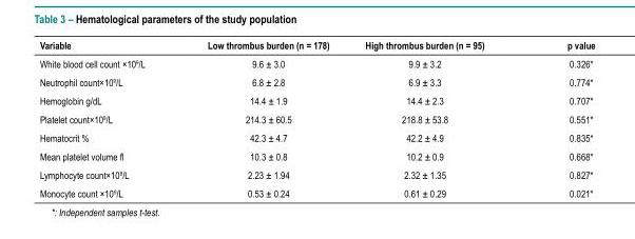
<table><thead><tr><td>Variable</td><td>Low thrombus burden (n = 178)</td><td>High thrombus burden (n = 95)</td><td>p value</td></tr></thead><tbody><tr><td>White blood cell count ×10<sup>9</sup>/L</td><td>9.6 ± 3.0</td><td>9.9 ± 3.2</td><td>0.326*</td></tr><tr><td>Neutrophil count×10<sup>9</sup>/L</td><td>6.8 ± 2.8</td><td>6.9 ± 3.3</td><td>0.774*</td></tr><tr><td>Hemoglobin g/dL</td><td>14.4 ± 1.9</td><td>14.4 ± 2.3</td><td>0.707*</td></tr><tr><td>Platelet count×10<sup>9</sup>/L</td><td>214.3 ± 60.5</td><td>218.8 ± 53.8</td><td>0.551*</td></tr><tr><td>Hematocrit %</td><td>42.3 ± 4.7</td><td>42.2 ± 4.9</td><td>0.835*</td></tr><tr><td>Mean platelet volume fl</td><td>10.3 ± 0.8</td><td>10.2 ± 0.9</td><td>0.668*</td></tr><tr><td>Lymphocyte count×10<sup>9</sup>/L</td><td>2.23 ± 1.94</td><td>2.32 ± 1.35</td><td>0.827*</td></tr><tr><td>Monocyte count ×10<sup>9</sup>/L</td><td>0.53 ± 0.24</td><td>0.61 ± 0.29</td><td>0.021*</td></tr></tbody></table>